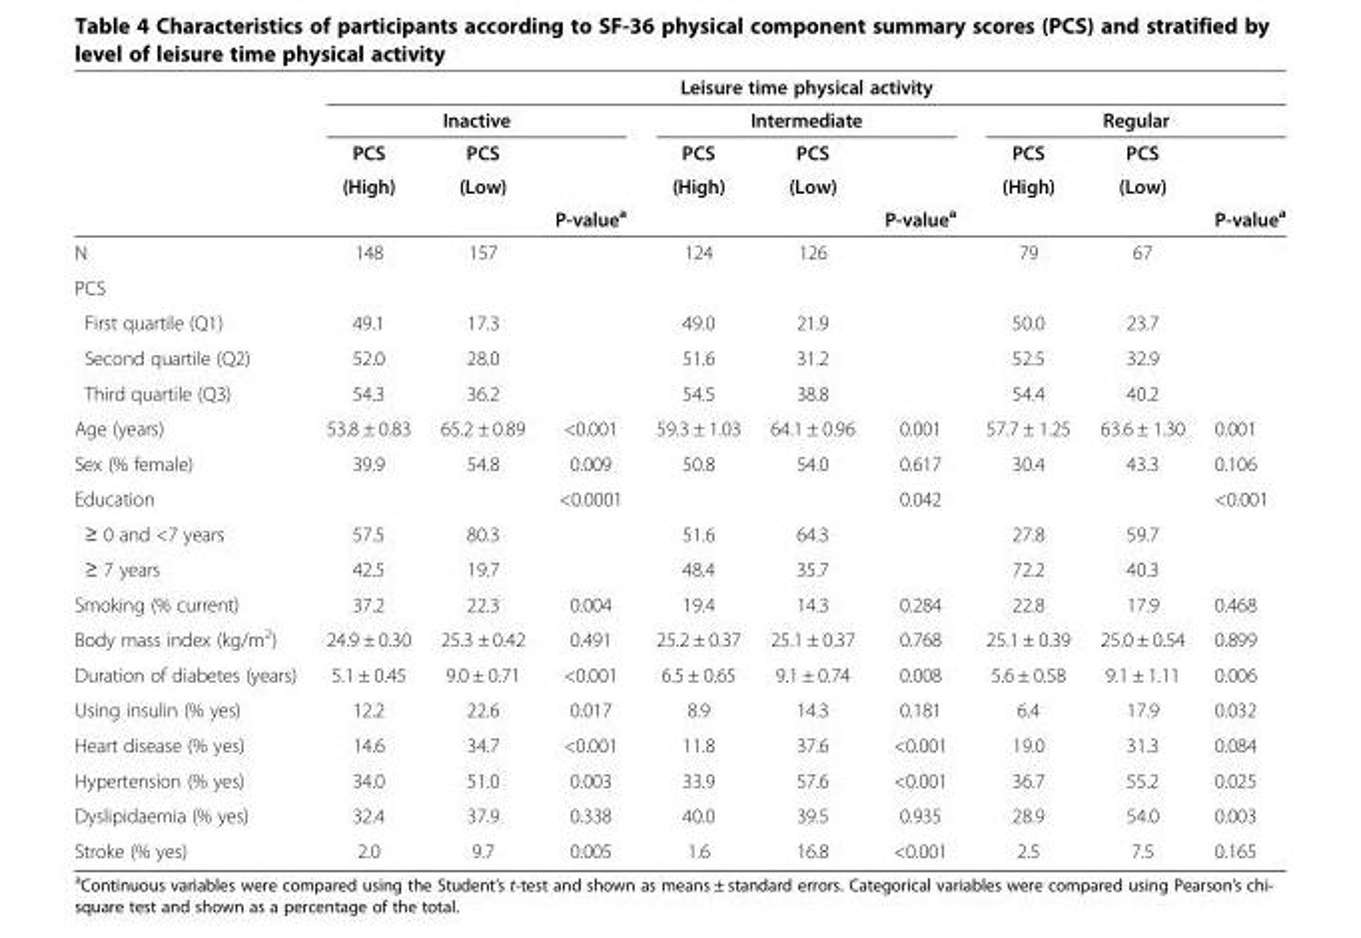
<table><thead><tr><td rowspan="5"></td><td colspan="9">Leisure time physical activity</td></tr><tr><td colspan="3">Inactive</td><td colspan="3">Intermediate</td><td colspan="3">Regular</td></tr><tr><td rowspan="3">PCS (High)</td><td rowspan="3">PCS (Low)</td><td rowspan="3">P-value<sup>a</sup></td><td rowspan="3">PCS (High)</td><td rowspan="3">PCS (Low)</td><td rowspan="3">P-value<sup>a</sup></td><td rowspan="3">PCS (High)</td><td rowspan="3">PCS (Low)</td><td rowspan="3">P-value<sup>a</sup></td></tr><tr></tr><tr></tr></thead><tbody><tr><td>N</td><td>148</td><td>157</td><td></td><td>124</td><td>126</td><td></td><td>79</td><td>67</td><td></td></tr><tr><td colspan="10">PCS</td></tr><tr><td>First quartile (Q1)</td><td>49.1</td><td>17.3</td><td></td><td>49.0</td><td>21.9</td><td></td><td>50.0</td><td>23.7</td><td></td></tr><tr><td>Second quartile (Q2)</td><td>52.0</td><td>28.0</td><td></td><td>51.6</td><td>31.2</td><td></td><td>52.5</td><td>32.9</td><td></td></tr><tr><td>Third quartile (Q3)</td><td>54.3</td><td>36.2</td><td></td><td>54.5</td><td>38.8</td><td></td><td>54.4</td><td>40.2</td><td></td></tr><tr><td>Age (years)</td><td>53.8 ± 0.83</td><td>65.2 ± 0.89</td><td>&lt;0.001</td><td>59.3 ± 1.03</td><td>64.1 ± 0.96</td><td>0.001</td><td>57.7 ± 1.25</td><td>63.6 ± 1.30</td><td>0.001</td></tr><tr><td>Sex (% female)</td><td>39.9</td><td>54.8</td><td>0.009</td><td>50.8</td><td>54.0</td><td>0.617</td><td>30.4</td><td>43.3</td><td>0.106</td></tr><tr><td>Education</td><td></td><td></td><td>&lt;0.0001</td><td></td><td></td><td>0.042</td><td></td><td></td><td>&lt;0.001</td></tr><tr><td>≥ 0 and &lt;7 years</td><td>57.5</td><td>80.3</td><td></td><td>51.6</td><td>64.3</td><td></td><td>27.8</td><td>59.7</td><td></td></tr><tr><td>≥ 7 years</td><td>42.5</td><td>19.7</td><td></td><td>48.4</td><td>35.7</td><td></td><td>72.2</td><td>40.3</td><td></td></tr><tr><td>Smoking (% current)</td><td>37.2</td><td>22.3</td><td>0.004</td><td>19.4</td><td>14.3</td><td>0.284</td><td>22.8</td><td>17.9</td><td>0.468</td></tr><tr><td>Body mass index (kg/m<sup>2</sup>)</td><td>24.9 ± 0.30</td><td>25.3 ± 0.42</td><td>0.491</td><td>25.2 ± 0.37</td><td>25.1 ± 0.37</td><td>0.768</td><td>25.1 ± 0.39</td><td>25.0 ± 0.54</td><td>0.899</td></tr><tr><td>Duration of diabetes (years)</td><td>5.1 ± 0.45</td><td>9.0 ± 0.71</td><td>&lt;0.001</td><td>6.5 ± 0.65</td><td>9.1 ± 0.74</td><td>0.008</td><td>5.6 ± 0.58</td><td>9.1 ± 1.11</td><td>0.006</td></tr><tr><td>Using insulin (% yes)</td><td>12.2</td><td>22.6</td><td>0.017</td><td>8.9</td><td>14.3</td><td>0.181</td><td>6.4</td><td>17.9</td><td>0.032</td></tr><tr><td>Heart disease (% yes)</td><td>14.6</td><td>34.7</td><td>&lt;0.001</td><td>11.8</td><td>37.6</td><td>&lt;0.001</td><td>19.0</td><td>31.3</td><td>0.084</td></tr><tr><td>Hypertension (% yes)</td><td>34.0</td><td>51.0</td><td>0.003</td><td>33.9</td><td>57.6</td><td>&lt;0.001</td><td>36.7</td><td>55.2</td><td>0.025</td></tr><tr><td>Dyslipidaemia (% yes)</td><td>32.4</td><td>37.9</td><td>0.338</td><td>40.0</td><td>39.5</td><td>0.935</td><td>28.9</td><td>54.0</td><td>0.003</td></tr><tr><td>Stroke (% yes)</td><td>2.0</td><td>9.7</td><td>0.005</td><td>1.6</td><td>16.8</td><td>&lt;0.001</td><td>2.5</td><td>7.5</td><td>0.165</td></tr></tbody></table>